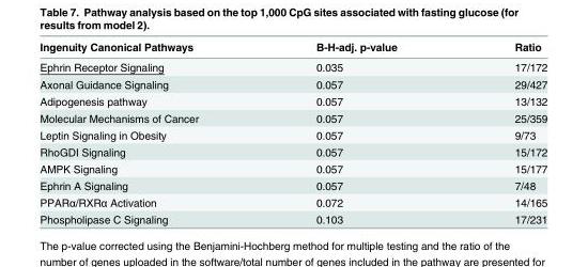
<table><thead><tr><td>Ingenuity Canonical Pathways</td><td>B-H-adj. p-value</td><td>Ratio</td></tr></thead><tbody><tr><td>Ephrin Receptor Signaling</td><td>0.035</td><td>17/172</td></tr><tr><td>Axonal Guidance Signaling</td><td>0.057</td><td>29/427</td></tr><tr><td>Adipogenesis pathway</td><td>0.057</td><td>13/132</td></tr><tr><td>Molecular Mechanisms of Cancer</td><td>0.057</td><td>25/359</td></tr><tr><td>Leptin Signaling in Obesity</td><td>0.057</td><td>9/73</td></tr><tr><td>RhoGDI Signaling</td><td>0.057</td><td>15/172</td></tr><tr><td>AMPK Signaling</td><td>0.057</td><td>15/177</td></tr><tr><td>Ephrin A Signaling</td><td>0.057</td><td>7/48</td></tr><tr><td>PPARα/RXRα Activation</td><td>0.072</td><td>14/165</td></tr><tr><td>Phospholipase C Signaling</td><td>0.103</td><td>17/231</td></tr></tbody></table>